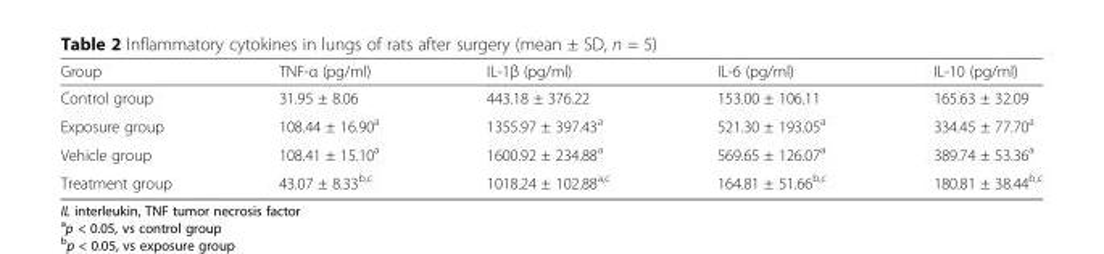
<table><thead><tr><td>Group</td><td>TNF-α (pg/ml)</td><td>IL-1β (pg/ml)</td><td>IL-6 (pg/ml)</td><td>IL-10 (pg/ml)</td></tr></thead><tbody><tr><td>Control group</td><td>31.95 ± 8.06</td><td>443.18 ± 376.22</td><td>153.00 ± 106.11</td><td>165.63 ± 32.09</td></tr><tr><td>Exposure group</td><td>108.44 ± 16.90<sup>a</sup></td><td>1355.97 ± 397.43<sup>a</sup></td><td>521.30 ± 193.05<sup>a</sup></td><td>334.45 ± 77.70<sup>a</sup></td></tr><tr><td>Vehicle group</td><td>108.41 ± 15.10<sup>a</sup></td><td>1600.92 ± 234.88<sup>a</sup></td><td>569.65 ± 126.07<sup>a</sup></td><td>389.74 ± 53.36<sup>a</sup></td></tr><tr><td>Treatment group</td><td>43.07 ± 8.33<sup>b,c</sup></td><td>1018.24 ± 102.88<sup>a,c</sup></td><td>164.81 ± 51.66<sup>b,c</sup></td><td>180.81 ± 38.44<sup>b,c</sup></td></tr></tbody></table>